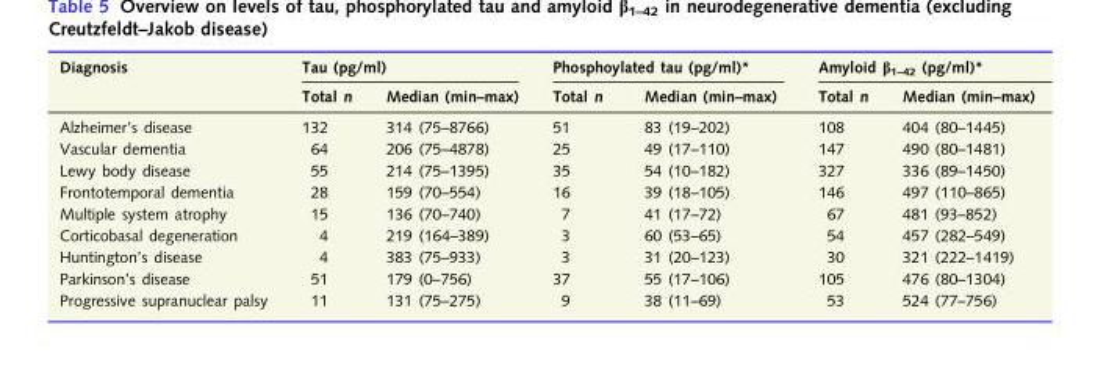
<table><thead><tr><td rowspan="2">Diagnosis</td><td colspan="2">Tau (pg/ml)</td><td colspan="2">Phosphoylated tau (pg/ml)*</td><td colspan="2">Amyloid β<sub>1–42</sub> (pg/ml)*</td></tr><tr><td>Total n</td><td>Median (min–max)</td><td>Total n</td><td>Median (min–max)</td><td>Total n</td><td>Median (min–max)</td></tr></thead><tbody><tr><td>Alzheimer’s disease</td><td>132</td><td>314 (75–8766)</td><td>51</td><td>83 (19–202)</td><td>108</td><td>404 (80–1445)</td></tr><tr><td>Vascular dementia</td><td>64</td><td>206 (75–4878)</td><td>25</td><td>49 (17–110)</td><td>147</td><td>490 (80–1481)</td></tr><tr><td>Lewy body disease</td><td>55</td><td>214 (75–1395)</td><td>35</td><td>54 (10–182)</td><td>327</td><td>336 (89–1450)</td></tr><tr><td>Frontotemporal dementia</td><td>28</td><td>159 (70–554)</td><td>16</td><td>39 (18–105)</td><td>146</td><td>497 (110–865)</td></tr><tr><td>Multiple system atrophy</td><td>15</td><td>136 (70–740)</td><td>7</td><td>41 (17–72)</td><td>67</td><td>481 (93–852)</td></tr><tr><td>Corticobasal degeneration</td><td>4</td><td>219 (164–389)</td><td>3</td><td>60 (53–65)</td><td>54</td><td>457 (282–549)</td></tr><tr><td>Huntington’s disease</td><td>4</td><td>383 (75–933)</td><td>3</td><td>31 (20–123)</td><td>30</td><td>321 (222–1419)</td></tr><tr><td>Parkinson’s disease</td><td>51</td><td>179 (0–756)</td><td>37</td><td>55 (17–106)</td><td>105</td><td>476 (80–1304)</td></tr><tr><td>Progressive supranuclear palsy</td><td>11</td><td>131 (75–275)</td><td>9</td><td>38 (11–69)</td><td>53</td><td>524 (77–756)</td></tr></tbody></table>